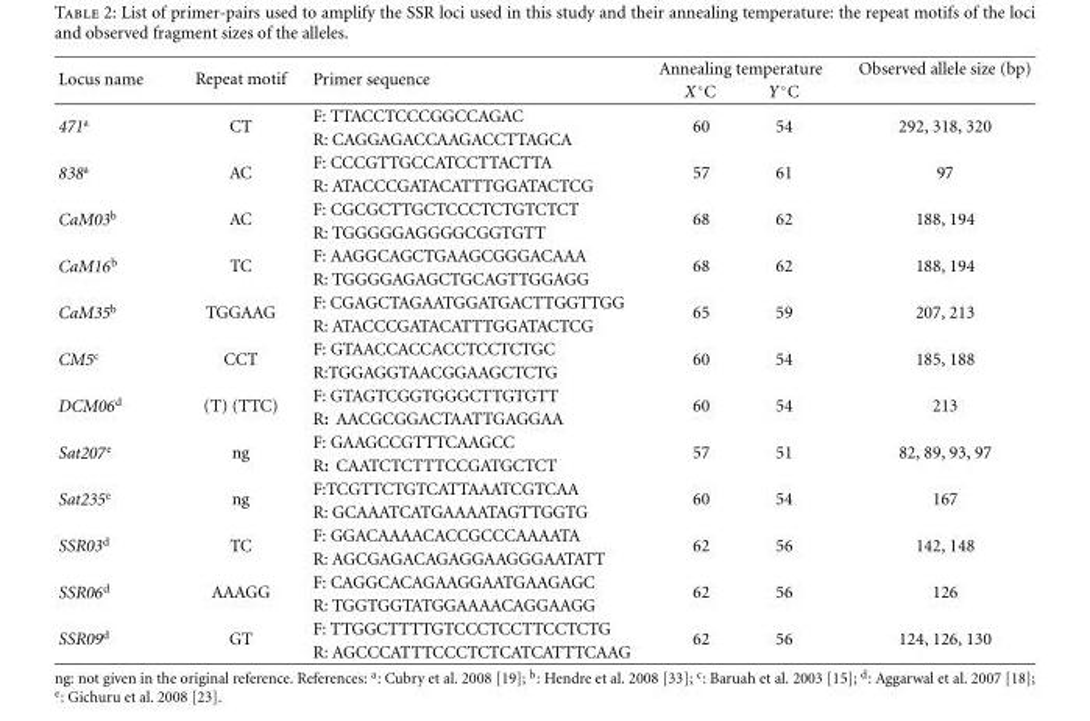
<table><thead><tr><td rowspan="2">Locus name</td><td rowspan="2">Repeat motif</td><td rowspan="2">Primer sequence</td><td colspan="2">Annealing temperature</td><td rowspan="2">Observed allele size (bp)</td></tr><tr><td>X◦C</td><td>Y ◦C</td></tr></thead><tbody><tr><td rowspan="2">471<sup>a</sup></td><td rowspan="2">CT</td><td>F: TTACCTCCCGGCCAGAC</td><td rowspan="2">60</td><td rowspan="2">54</td><td rowspan="2">292, 318, 320</td></tr><tr><td>R: CAGGAGACCAAGACCTTAGCA</td></tr><tr><td rowspan="2">838<sup>a</sup></td><td rowspan="2">AC</td><td>F: CCCGTTGCCATCCTTACTTA</td><td rowspan="2">57</td><td rowspan="2">61</td><td rowspan="2">97</td></tr><tr><td>R: ATACCCGATACATTTGGATACTCG</td></tr><tr><td rowspan="2">CaM03<sup>b</sup></td><td rowspan="2">AC</td><td>F: CGCGCTTGCTCCCTCTGTCTCT</td><td rowspan="2">68</td><td rowspan="2">62</td><td rowspan="2">188, 194</td></tr><tr><td>R: TGGGGGAGGGGCGGTGTT</td></tr><tr><td rowspan="2">CaM16<sup>b</sup></td><td rowspan="2">TC</td><td>F: AAGGCAGCTGAAGCGGGACAAA</td><td rowspan="2">68</td><td rowspan="2">62</td><td rowspan="2">188, 194</td></tr><tr><td>R: TGGGGAGAGCTGCAGTTGGAGG</td></tr><tr><td rowspan="2">CaM35<sup>b</sup></td><td rowspan="2">TGGAAG</td><td>F: CGAGCTAGAATGGATGACTTGGTTGG</td><td rowspan="2">65</td><td rowspan="2">59</td><td rowspan="2">207, 213</td></tr><tr><td>R: ATACCCGATACATTTGGATACTCG</td></tr><tr><td rowspan="2">CM5<sup>c</sup></td><td rowspan="2">CCT</td><td>F: GTAACCACCACCTCCTCTGC</td><td rowspan="2">60</td><td rowspan="2">54</td><td rowspan="2">185, 188</td></tr><tr><td>R:TGGAGGTAACGGAAGCTCTG</td></tr><tr><td rowspan="2">DCM06<sup>d</sup></td><td rowspan="2">(T) (TTC)</td><td>F: GTAGTCGGTGGGCTTGTGTT</td><td rowspan="2">60</td><td rowspan="2">54</td><td rowspan="2">213</td></tr><tr><td>R: AACGCGGACTAATTGAGGAA</td></tr><tr><td rowspan="2">Sat207<sup>e</sup></td><td rowspan="2">ng</td><td>F: GAAGCCGTTTCAAGCC</td><td rowspan="2">57</td><td rowspan="2">51</td><td rowspan="2">82, 89, 93, 97</td></tr><tr><td>R: CAATCTCTTTCCGATGCTCT</td></tr><tr><td rowspan="2">Sat235<sup>e</sup></td><td rowspan="2">ng</td><td>F:TCGTTCTGTCATTAAATCGTCAA</td><td rowspan="2">60</td><td rowspan="2">54</td><td rowspan="2">167</td></tr><tr><td>R: GCAAATCATGAAAATAGTTGGTG</td></tr><tr><td rowspan="2">SSR03<sup>d</sup></td><td rowspan="2">TC</td><td>F: GGACAAAACACCGCCCAAAATA</td><td rowspan="2">62</td><td rowspan="2">56</td><td rowspan="2">142, 148</td></tr><tr><td>R: AGCGAGACAGAGGAAGGGAATATT</td></tr><tr><td rowspan="2">SSR06<sup>d</sup></td><td rowspan="2">AAAGG</td><td>F: CAGGCACAGAAGGAATGAAGAGC</td><td rowspan="2">62</td><td rowspan="2">56</td><td rowspan="2">126</td></tr><tr><td>R: TGGTGGTATGGAAAACAGGAAGG</td></tr><tr><td rowspan="2">SSR09<sup>d</sup></td><td rowspan="2">GT</td><td>F: TTGGCTTTTGTCCCTCCTTCCTCTG</td><td rowspan="2">62</td><td rowspan="2">56</td><td rowspan="2">124, 126, 130</td></tr><tr><td>R: AGCCCATTTCCCTCTCATCATTTCAAG</td></tr></tbody></table>